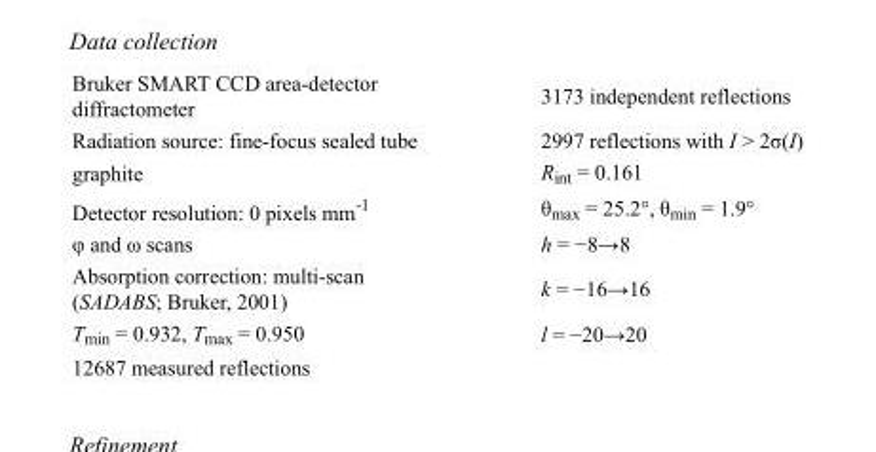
<table><tbody><tr><td>Bruker SMART CCD area-detector diffractometer</td><td>3173 independent reflections</td></tr><tr><td>Radiation source: fine-focus sealed tube</td><td>2997 reflections with I &gt; 2σ(I)</td></tr><tr><td>graphite</td><td>R<sub>int</sub> = 0.161</td></tr><tr><td>Detector resolution: 0 pixels mm<sup>-1</sup></td><td>θ<sub>max</sub> = 25.2°, θ<sub>min</sub> = 1.9°</td></tr><tr><td>φ and ω scans</td><td>h = −8→8</td></tr><tr><td>Absorption correction: multi-scan (SADABS; Bruker, 2001)</td><td>k = −16→16</td></tr><tr><td>T<sub>min</sub> = 0.932, T<sub>max</sub> = 0.950</td><td>l = −20→20</td></tr><tr><td>12687 measured reflections</td><td></td></tr></tbody></table>